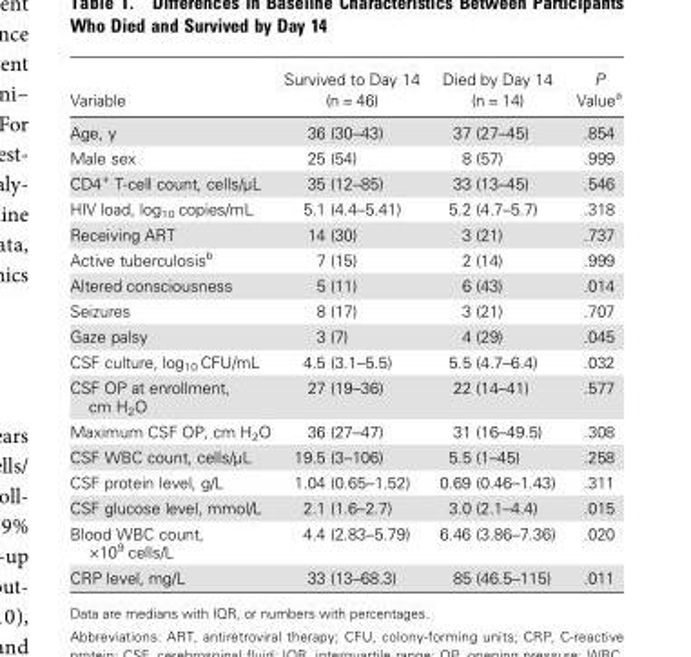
<table><thead><tr><td>Variable</td><td>Survived to Day 14 (n = 46)</td><td>Died by Day 14 (n = 14)</td><td>P Value<sup>a</sup></td></tr></thead><tbody><tr><td>Age, y</td><td>36 (30–43)</td><td>37 (27–45)</td><td>.854</td></tr><tr><td>Male sex</td><td>25 (54)</td><td>8 (57)</td><td>.999</td></tr><tr><td>CD4<sup>+</sup> T-cell count, cells/µL</td><td>35 (12–85)</td><td>33 (13–45)</td><td>.546</td></tr><tr><td>HIV load, log<sub>10</sub> copies/mL</td><td>5.1 (4.4–5.41)</td><td>5.2 (4.7–5.7)</td><td>.318</td></tr><tr><td>Receiving ART</td><td>14 (30)</td><td>3 (21)</td><td>.737</td></tr><tr><td>Active tuberculosis<sup>b</sup></td><td>7 (15)</td><td>2 (14)</td><td>.999</td></tr><tr><td>Altered consciousness</td><td>5 (11)</td><td>6 (43)</td><td>.014</td></tr><tr><td>Seizures</td><td>8 (17)</td><td>3 (21)</td><td>.707</td></tr><tr><td>Gaze palsy</td><td>3 (7)</td><td>4 (29)</td><td>.045</td></tr><tr><td>CSF culture, log<sub>10</sub> CFU/mL</td><td>4.5 (3.1–5.5)</td><td>5.5 (4.7–6.4)</td><td>.032</td></tr><tr><td>CSF OP at enrollment, cm H<sub>2</sub>O</td><td>27 (19–36)</td><td>22 (14–41)</td><td>.577</td></tr><tr><td>Maximum CSF OP, cm H<sub>2</sub>O</td><td>36 (27–47)</td><td>31 (16–49.5)</td><td>.308</td></tr><tr><td>CSF WBC count, cells/µL</td><td>19.5 (3–106)</td><td>5.5 (1–45)</td><td>.258</td></tr><tr><td>CSF protein level, g/L</td><td>1.04 (0.65–1.52)</td><td>0.69 (0.46–1.43)</td><td>.311</td></tr><tr><td>CSF glucose level, mmol/L</td><td>2.1 (1.6–2.7)</td><td>3.0 (2.1–4.4)</td><td>.015</td></tr><tr><td>Blood WBC count, ×10<sup>9</sup> cells/L</td><td>4.4 (2.83–5.79)</td><td>6.46 (3.86–7.36)</td><td>.020</td></tr><tr><td>CRP level, mg/L</td><td>33 (13–68.3)</td><td>85 (46.5–115)</td><td>.011</td></tr></tbody></table>